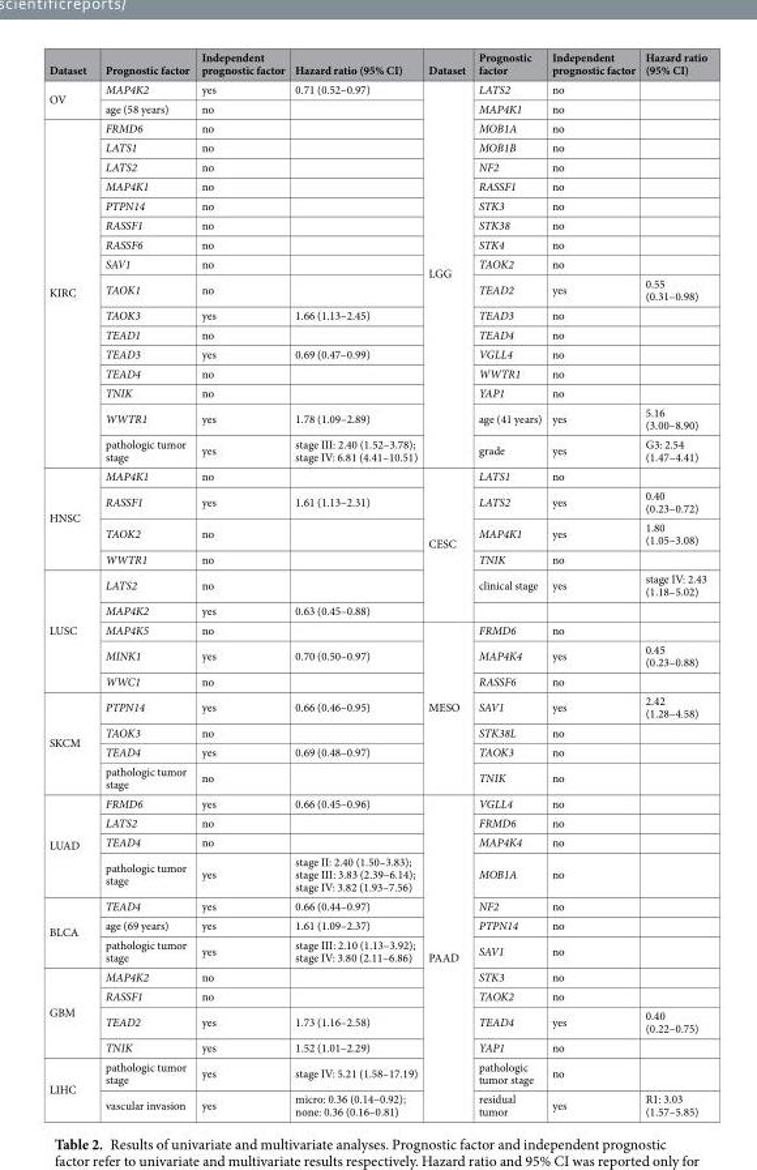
<table><thead><tr><td>Dataset</td><td>Prognostic factor</td><td>Independent prognostic factor</td><td>Hazard ratio (95% CI)</td><td>Dataset</td><td>Prognostic factor</td><td>Independent prognostic factor</td><td>Hazard ratio (95% CI)</td></tr></thead><tbody><tr><td rowspan="2">OV</td><td>MAP4K2</td><td>yes</td><td>0.71 (0.52–0.97)</td><td rowspan="18">LGG</td><td>LATS2</td><td>no</td><td></td></tr><tr><td>age (58 years)</td><td>no</td><td></td><td>MAP4K1</td><td>no</td><td></td></tr><tr><td rowspan="16">KIRC</td><td>FRMD6</td><td>no</td><td></td><td>MOB1A</td><td>no</td><td></td></tr><tr><td>LATS1</td><td>no</td><td></td><td>MOB1B</td><td>no</td><td></td></tr><tr><td>LATS2</td><td>no</td><td></td><td>NF2</td><td>no</td><td></td></tr><tr><td>MAP4K1</td><td>no</td><td></td><td>RASSF1</td><td>no</td><td></td></tr><tr><td>PTPN14</td><td>no</td><td></td><td>STK3</td><td>no</td><td></td></tr><tr><td>RASSF1</td><td>no</td><td></td><td>STK38</td><td>no</td><td></td></tr><tr><td>RASSF6</td><td>no</td><td></td><td>STK4</td><td>no</td><td></td></tr><tr><td>SAV1</td><td>no</td><td></td><td>TAOK2</td><td>no</td><td></td></tr><tr><td>TAOK1</td><td>no</td><td></td><td>TEAD2</td><td>yes</td><td>0.55 (0.31–0.98)</td></tr><tr><td>TAOK3</td><td>yes</td><td>1.66 (1.13–2.45)</td><td>TEAD3</td><td>no</td><td></td></tr><tr><td>TEAD1</td><td>no</td><td></td><td>TEAD4</td><td>no</td><td></td></tr><tr><td>TEAD3</td><td>yes</td><td>0.69 (0.47–0.99)</td><td>VGLL4</td><td>no</td><td></td></tr><tr><td>TEAD4</td><td>no</td><td></td><td>WWTR1</td><td>no</td><td></td></tr><tr><td>TNIK</td><td>no</td><td></td><td>YAP1</td><td>no</td><td></td></tr><tr><td>WWTR1</td><td>yes</td><td>1.78 (1.09–2.89)</td><td>age (41 years)</td><td>yes</td><td>5.16 (3.00–8.90)</td></tr><tr><td>pathologic tumor stage</td><td>yes</td><td>stage III: 2.40 (1.52–3.78); stage IV: 6.81 (4.41–10.51)</td><td>grade</td><td>yes</td><td>G3: 2.54 (1.47–4.41)</td></tr><tr><td rowspan="4">HNSC</td><td>MAP4K1</td><td>no</td><td></td><td rowspan="6">CESC</td><td>LATS1</td><td>no</td><td></td></tr><tr><td>RASSF1</td><td>yes</td><td>1.61 (1.13–2.31)</td><td>LATS2</td><td>yes</td><td>0.40 (0.23–0.72)</td></tr><tr><td>TAOK2</td><td>no</td><td></td><td>MAP4K1</td><td>yes</td><td>1.80 (1.05–3.08)</td></tr><tr><td>WWTR1</td><td>no</td><td></td><td>TNIK</td><td>no</td><td></td></tr><tr><td rowspan="5">LUSC</td><td>LATS2</td><td>no</td><td></td><td>clinical stage</td><td>yes</td><td>stage IV: 2.43 (1.18–5.02)</td></tr><tr><td>MAP4K2</td><td>yes</td><td>0.63 (0.45–0.88)</td><td></td><td></td><td></td></tr><tr><td>MAP4K5</td><td>no</td><td></td><td rowspan="7">MESO</td><td>FRMD6</td><td>no</td><td></td></tr><tr><td>MINK1</td><td>yes</td><td>0.70 (0.50–0.97)</td><td>MAP4K4</td><td>yes</td><td>0.45 (0.23–0.88)</td></tr><tr><td>WWC1</td><td>no</td><td></td><td>RASSF6</td><td>no</td><td></td></tr><tr><td rowspan="4">SKCM</td><td>PTPN14</td><td>yes</td><td>0.66 (0.46–0.95)</td><td>SAV1</td><td>yes</td><td>2.42 (1.28–4.58)</td></tr><tr><td>TAOK3</td><td>no</td><td></td><td>STK38L</td><td>no</td><td></td></tr><tr><td>TEAD4</td><td>yes</td><td>0.69 (0.48–0.97)</td><td>TAOK3</td><td>no</td><td></td></tr><tr><td>pathologic tumor stage</td><td>no</td><td></td><td>TNIK</td><td>no</td><td></td></tr><tr><td rowspan="4">LUAD</td><td>FRMD6</td><td>yes</td><td>0.66 (0.45–0.96)</td><td rowspan="13">PAAD</td><td>VGLL4</td><td>no</td><td></td></tr><tr><td>LATS2</td><td>no</td><td></td><td>FRMD6</td><td>no</td><td></td></tr><tr><td>TEAD4</td><td>no</td><td></td><td>MAP4K4</td><td>no</td><td></td></tr><tr><td>pathologic tumor stage</td><td>yes</td><td>stage II: 2.40 (1.50–3.83); stage III: 3.83 (2.39–6.14); stage IV: 3.82 (1.93–7.56)</td><td>MOB1A</td><td>no</td><td></td></tr><tr><td rowspan="3">BLCA</td><td>TEAD4</td><td>yes</td><td>0.66 (0.44–0.97)</td><td>NF2</td><td>no</td><td></td></tr><tr><td>age (69 years)</td><td>yes</td><td>1.61 (1.09–2.37)</td><td>PTPN14</td><td>no</td><td></td></tr><tr><td>pathologic tumor stage</td><td>yes</td><td>stage III: 2.10 (1.13–3.92); stage IV: 3.80 (2.11–6.86)</td><td>SAV1</td><td>no</td><td></td></tr><tr><td rowspan="4">GBM</td><td>MAP4K2</td><td>no</td><td></td><td>STK3</td><td>no</td><td></td></tr><tr><td>RASSF1</td><td>no</td><td></td><td>TAOK2</td><td>no</td><td></td></tr><tr><td>TEAD2</td><td>yes</td><td>1.73 (1.16–2.58)</td><td>TEAD4</td><td>yes</td><td>0.40 (0.22–0.75)</td></tr><tr><td>TNIK</td><td>yes</td><td>1.52 (1.01–2.29)</td><td>YAP1</td><td>no</td><td></td></tr><tr><td rowspan="2">LIHC</td><td>pathologic tumor stage</td><td>yes</td><td>stage IV: 5.21 (1.58–17.19)</td><td>pathologic tumor stage</td><td>no</td><td></td></tr><tr><td>vascular invasion</td><td>yes</td><td>micro: 0.36 (0.14–0.92); none: 0.36 (0.16–0.81)</td><td>residual tumor</td><td>yes</td><td>R1: 3.03 (1.57–5.85)</td></tr></tbody></table>